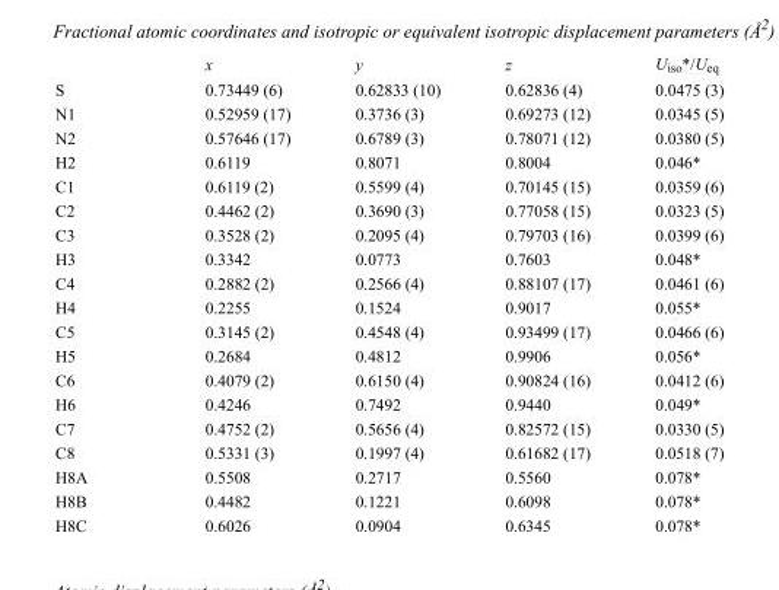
<table><thead><tr><td></td><td>x</td><td>y</td><td>z</td><td>U<sub>iso</sub>*/U<sub>eq</sub></td></tr></thead><tbody><tr><td>S</td><td>0.73449 (6)</td><td>0.62833 (10)</td><td>0.62836 (4)</td><td>0.0475 (3)</td></tr><tr><td>N1</td><td>0.52959 (17)</td><td>0.3736 (3)</td><td>0.69273 (12)</td><td>0.0345 (5)</td></tr><tr><td>N2</td><td>0.57646 (17)</td><td>0.6789 (3)</td><td>0.78071 (12)</td><td>0.0380 (5)</td></tr><tr><td>H2</td><td>0.6119</td><td>0.8071</td><td>0.8004</td><td>0.046*</td></tr><tr><td>C1</td><td>0.6119 (2)</td><td>0.5599 (4)</td><td>0.70145 (15)</td><td>0.0359 (6)</td></tr><tr><td>C2</td><td>0.4462 (2)</td><td>0.3690 (3)</td><td>0.77058 (15)</td><td>0.0323 (5)</td></tr><tr><td>C3</td><td>0.3528 (2)</td><td>0.2095 (4)</td><td>0.79703 (16)</td><td>0.0399 (6)</td></tr><tr><td>H3</td><td>0.3342</td><td>0.0773</td><td>0.7603</td><td>0.048*</td></tr><tr><td>C4</td><td>0.2882 (2)</td><td>0.2566 (4)</td><td>0.88107 (17)</td><td>0.0461 (6)</td></tr><tr><td>H4</td><td>0.2255</td><td>0.1524</td><td>0.9017</td><td>0.055*</td></tr><tr><td>C5</td><td>0.3145 (2)</td><td>0.4548 (4)</td><td>0.93499 (17)</td><td>0.0466 (6)</td></tr><tr><td>H5</td><td>0.2684</td><td>0.4812</td><td>0.9906</td><td>0.056*</td></tr><tr><td>C6</td><td>0.4079 (2)</td><td>0.6150 (4)</td><td>0.90824 (16)</td><td>0.0412 (6)</td></tr><tr><td>H6</td><td>0.4246</td><td>0.7492</td><td>0.9440</td><td>0.049*</td></tr><tr><td>C7</td><td>0.4752 (2)</td><td>0.5656 (4)</td><td>0.82572 (15)</td><td>0.0330 (5)</td></tr><tr><td>C8</td><td>0.5331 (3)</td><td>0.1997 (4)</td><td>0.61682 (17)</td><td>0.0518 (7)</td></tr><tr><td>H8A</td><td>0.5508</td><td>0.2717</td><td>0.5560</td><td>0.078*</td></tr><tr><td>H8B</td><td>0.4482</td><td>0.1221</td><td>0.6098</td><td>0.078*</td></tr><tr><td>H8C</td><td>0.6026</td><td>0.0904</td><td>0.6345</td><td>0.078*</td></tr></tbody></table>